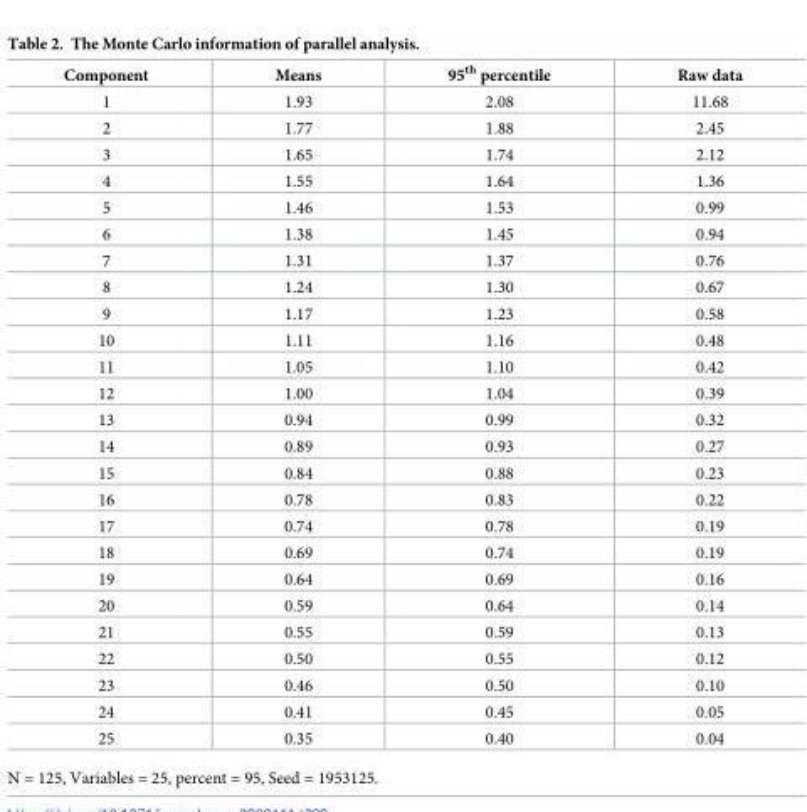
<table><thead><tr><td>Component</td><td>Means</td><td>95<sup>th</sup> percentile</td><td>Raw data</td></tr></thead><tbody><tr><td>1</td><td>1.93</td><td>2.08</td><td>11.68</td></tr><tr><td>2</td><td>1.77</td><td>1.88</td><td>2.45</td></tr><tr><td>3</td><td>1.65</td><td>1.74</td><td>2.12</td></tr><tr><td>4</td><td>1.55</td><td>1.64</td><td>1.36</td></tr><tr><td>5</td><td>1.46</td><td>1.53</td><td>0.99</td></tr><tr><td>6</td><td>1.38</td><td>1.45</td><td>0.94</td></tr><tr><td>7</td><td>1.31</td><td>1.37</td><td>0.76</td></tr><tr><td>8</td><td>1.24</td><td>1.30</td><td>0.67</td></tr><tr><td>9</td><td>1.17</td><td>1.23</td><td>0.58</td></tr><tr><td>10</td><td>1.11</td><td>1.16</td><td>0.48</td></tr><tr><td>11</td><td>1.05</td><td>1.10</td><td>0.42</td></tr><tr><td>12</td><td>1.00</td><td>1.04</td><td>0.39</td></tr><tr><td>13</td><td>0.94</td><td>0.99</td><td>0.32</td></tr><tr><td>14</td><td>0.89</td><td>0.93</td><td>0.27</td></tr><tr><td>15</td><td>0.84</td><td>0.88</td><td>0.23</td></tr><tr><td>16</td><td>0.78</td><td>0.83</td><td>0.22</td></tr><tr><td>17</td><td>0.74</td><td>0.78</td><td>0.19</td></tr><tr><td>18</td><td>0.69</td><td>0.74</td><td>0.19</td></tr><tr><td>19</td><td>0.64</td><td>0.69</td><td>0.16</td></tr><tr><td>20</td><td>0.59</td><td>0.64</td><td>0.14</td></tr><tr><td>21</td><td>0.55</td><td>0.59</td><td>0.13</td></tr><tr><td>22</td><td>0.50</td><td>0.55</td><td>0.12</td></tr><tr><td>23</td><td>0.46</td><td>0.50</td><td>0.10</td></tr><tr><td>24</td><td>0.41</td><td>0.45</td><td>0.05</td></tr><tr><td>25</td><td>0.35</td><td>0.40</td><td>0.04</td></tr></tbody></table>